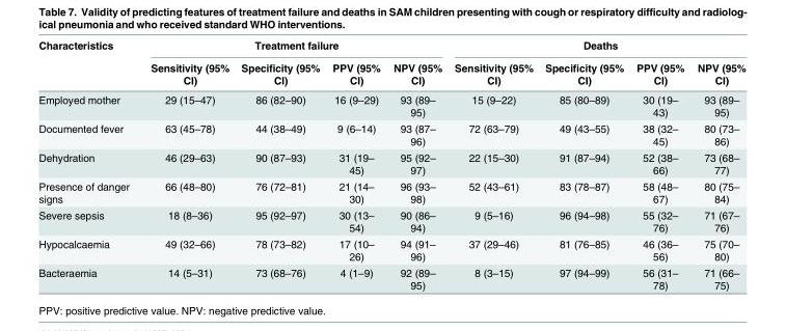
<table><thead><tr><td rowspan="2">Characteristics</td><td colspan="4">Treatment failure</td><td colspan="4">Deaths</td></tr><tr><td>Sensitivity (95% CI)</td><td>Specificity (95% CI)</td><td>PPV (95% CI)</td><td>NPV (95% CI)</td><td>Sensitivity (95% CI)</td><td>Specificity (95% CI)</td><td>PPV (95% CI)</td><td>NPV (95% CI)</td></tr></thead><tbody><tr><td>Employed mother</td><td>29 (15–47)</td><td>86 (82–90)</td><td>16 (9–29)</td><td>93 (89– 95)</td><td>15 (9–22)</td><td>85 (80–89)</td><td>30 (19– 43)</td><td>93 (89– 95)</td></tr><tr><td>Documented fever</td><td>63 (45–78)</td><td>44 (38–49)</td><td>9 (6–14)</td><td>93 (87– 96)</td><td>72 (63–79)</td><td>49 (43–55)</td><td>38 (32– 45)</td><td>80 (73– 86)</td></tr><tr><td>Dehydration</td><td>46 (29–63)</td><td>90 (87–93)</td><td>31 (19– 45)</td><td>95 (92– 97)</td><td>22 (15–30)</td><td>91 (87–94)</td><td>52 (38– 66)</td><td>73 (68– 77)</td></tr><tr><td>Presence of danger signs</td><td>66 (48–80)</td><td>76 (72–81)</td><td>21 (14– 30)</td><td>96 (93– 98)</td><td>52 (43–61)</td><td>83 (78–87)</td><td>58 (48– 67)</td><td>80 (75– 84)</td></tr><tr><td>Severe sepsis</td><td>18 (8–36)</td><td>95 (92–97)</td><td>30 (13– 54)</td><td>90 (86– 94)</td><td>9 (5–16)</td><td>96 (94–98)</td><td>55 (32– 76)</td><td>71 (67– 76)</td></tr><tr><td>Hypocalcaemia</td><td>49 (32–66)</td><td>78 (73–82)</td><td>17 (10– 26)</td><td>94 (91– 96)</td><td>37 (29–46)</td><td>81 (76–85)</td><td>46 (36– 56)</td><td>75 (70– 80)</td></tr><tr><td>Bacteraemia</td><td>14 (5–31)</td><td>73 (68–76)</td><td>4 (1–9)</td><td>92 (89– 95)</td><td>8 (3–15)</td><td>97 (94–99)</td><td>56 (31– 78)</td><td>71 (66– 75)</td></tr></tbody></table>